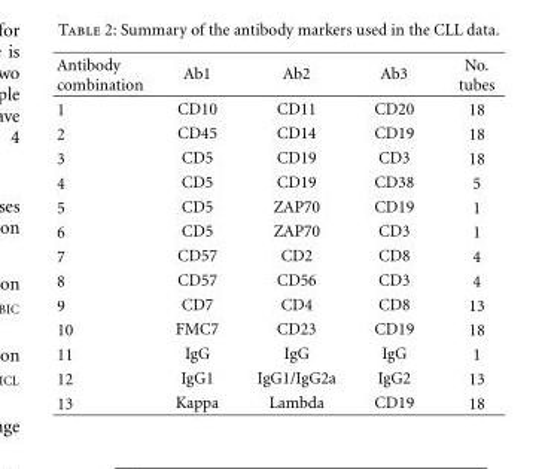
<table><thead><tr><td>Antibody combination</td><td>Ab1</td><td>Ab2</td><td>Ab3</td><td>No. tubes</td></tr></thead><tbody><tr><td>1</td><td>CD10</td><td>CD11</td><td>CD20</td><td>18</td></tr><tr><td>2</td><td>CD45</td><td>CD14</td><td>CD19</td><td>18</td></tr><tr><td>3</td><td>CD5</td><td>CD19</td><td>CD3</td><td>18</td></tr><tr><td>4</td><td>CD5</td><td>CD19</td><td>CD38</td><td>5</td></tr><tr><td>5</td><td>CD5</td><td>ZAP70</td><td>CD19</td><td>1</td></tr><tr><td>6</td><td>CD5</td><td>ZAP70</td><td>CD3</td><td>1</td></tr><tr><td>7</td><td>CD57</td><td>CD2</td><td>CD8</td><td>4</td></tr><tr><td>8</td><td>CD57</td><td>CD56</td><td>CD3</td><td>4</td></tr><tr><td>9</td><td>CD7</td><td>CD4</td><td>CD8</td><td>13</td></tr><tr><td>10</td><td>FMC7</td><td>CD23</td><td>CD19</td><td>18</td></tr><tr><td>11</td><td>IgG</td><td>IgG</td><td>IgG</td><td>1</td></tr><tr><td>12</td><td>IgG1</td><td>IgG1/IgG2a</td><td>IgG2</td><td>13</td></tr><tr><td>13</td><td>Kappa</td><td>Lambda</td><td>CD19</td><td>18</td></tr></tbody></table>